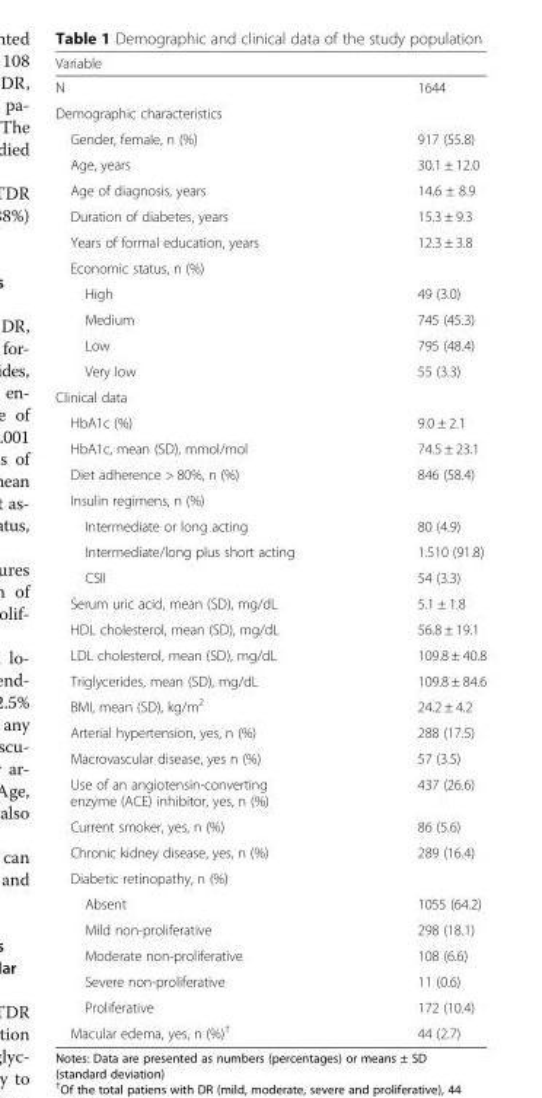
<table><thead><tr><td>Variable</td><td></td></tr></thead><tbody><tr><td>N</td><td>1644</td></tr><tr><td colspan="2">Demographic characteristics</td></tr><tr><td>Gender, female, n (%)</td><td>917 (55.8)</td></tr><tr><td>Age, years</td><td>30.1 ± 12.0</td></tr><tr><td>Age of diagnosis, years</td><td>14.6 ± 8.9</td></tr><tr><td>Duration of diabetes, years</td><td>15.3 ± 9.3</td></tr><tr><td>Years of formal education, years</td><td>12.3 ± 3.8</td></tr><tr><td colspan="2">Economic status, n (%)</td></tr><tr><td>High</td><td>49 (3.0)</td></tr><tr><td>Medium</td><td>745 (45.3)</td></tr><tr><td>Low</td><td>795 (48.4)</td></tr><tr><td>Very low</td><td>55 (3.3)</td></tr><tr><td colspan="2">Clinical data</td></tr><tr><td>HbA1c (%)</td><td>9.0 ± 2.1</td></tr><tr><td>HbA1c, mean (SD), mmol/mol</td><td>74.5 ± 23.1</td></tr><tr><td>Diet adherence &gt; 80%, n (%)</td><td>846 (58.4)</td></tr><tr><td colspan="2">Insulin regimens, n (%)</td></tr><tr><td>Intermediate or long acting</td><td>80 (4.9)</td></tr><tr><td>Intermediate/long plus short acting</td><td>1.510 (91.8)</td></tr><tr><td>CSII</td><td>54 (3.3)</td></tr><tr><td>Serum uric acid, mean (SD), mg/dL</td><td>5.1 ± 1.8</td></tr><tr><td>HDL cholesterol, mean (SD), mg/dL</td><td>56.8 ± 19.1</td></tr><tr><td>LDL cholesterol, mean (SD), mg/dL</td><td>109.8 ± 40.8</td></tr><tr><td>Triglycerides, mean (SD), mg/dL</td><td>109.8 ± 84.6</td></tr><tr><td>BMI, mean (SD), kg/m<sup>2</sup></td><td>24.2 ± 4.2</td></tr><tr><td>Arterial hypertension, yes, n (%)</td><td>288 (17.5)</td></tr><tr><td>Macrovascular disease, yes n (%)</td><td>57 (3.5)</td></tr><tr><td>Use of an angiotensin-converting enzyme (ACE) inhibitor, yes, n (%)</td><td>437 (26.6)</td></tr><tr><td>Current smoker, yes, n (%)</td><td>86 (5.6)</td></tr><tr><td>Chronic kidney disease, yes, n (%)</td><td>289 (16.4)</td></tr><tr><td colspan="2">Diabetic retinopathy, n (%)</td></tr><tr><td>Absent</td><td>1055 (64.2)</td></tr><tr><td>Mild non-proliferative</td><td>298 (18.1)</td></tr><tr><td>Moderate non-proliferative</td><td>108 (6.6)</td></tr><tr><td>Severe non-proliferative</td><td>11 (0.6)</td></tr><tr><td>Proliferative</td><td>172 (10.4)</td></tr><tr><td>Macular edema, yes, n (%)<sup>†</sup></td><td>44 (2.7)</td></tr></tbody></table>